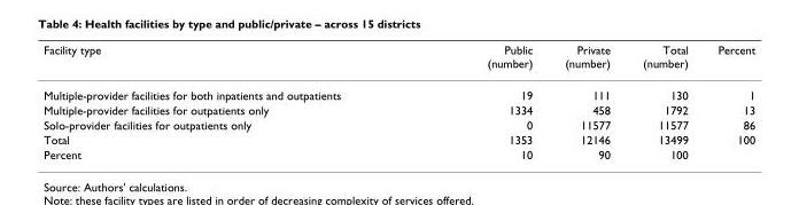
<table><thead><tr><td>Facility type</td><td>Public (number)</td><td>Private (number)</td><td>Total (number)</td><td>Percent</td></tr></thead><tbody><tr><td>Multiple-provider facilities for both inpatients and outpatients</td><td>19</td><td>111</td><td>130</td><td>1</td></tr><tr><td>Multiple-provider facilities for outpatients only</td><td>1334</td><td>458</td><td>1792</td><td>13</td></tr><tr><td>Solo-provider facilities for outpatients only</td><td>0</td><td>11577</td><td>11577</td><td>86</td></tr><tr><td>Total</td><td>1353</td><td>12146</td><td>13499</td><td>100</td></tr><tr><td>Percent</td><td>10</td><td>90</td><td>100</td><td></td></tr></tbody></table>